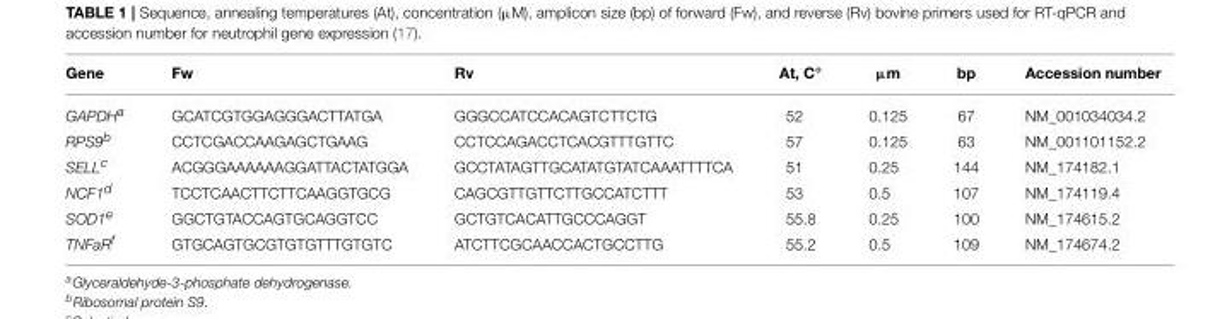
<table><thead><tr><td>Gene</td><td>Fw</td><td>Rv</td><td>At, C◦</td><td>µm</td><td>bp</td><td>Accession number</td></tr></thead><tbody><tr><td>GAPDHa</td><td>GCATCGTGGAGGGACTTATGA</td><td>GGGCCATCCACAGTCTTCTG</td><td>52</td><td>0.125</td><td>67</td><td>NM_001034034.2</td></tr><tr><td>RPS9b</td><td>CCTCGACCAAGAGCTGAAG</td><td>CCTCCAGACCTCACGTTTGTTC</td><td>57</td><td>0.125</td><td>63</td><td>NM_001101152.2</td></tr><tr><td>SELLc</td><td>ACGGGAAAAAAGGATTACTATGGA</td><td>GCCTATAGTTGCATATGTATCAAATTTTCA</td><td>51</td><td>0.25</td><td>144</td><td>NM_174182.1</td></tr><tr><td>NCF1d</td><td>TCCTCAACTTCTTCAAGGTGCG</td><td>CAGCGTTGTTCTTGCCATCTTT</td><td>53</td><td>0.5</td><td>107</td><td>NM_174119.4</td></tr><tr><td>SOD1e</td><td>GGCTGTACCAGTGCAGGTCC</td><td>GCTGTCACATTGCCCAGGT</td><td>55.8</td><td>0.25</td><td>100</td><td>NM_174615.2</td></tr><tr><td>TNFaRf</td><td>GTGCAGTGCGTGTGTTTGTGTC</td><td>ATCTTCGCAACCACTGCCTTG</td><td>55.2</td><td>0.5</td><td>109</td><td>NM_174674.2</td></tr></tbody></table>